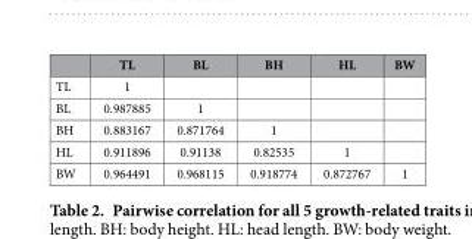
<table><thead><tr><td></td><td>TL</td><td>BL</td><td>BH</td><td>HL</td><td>BW</td></tr></thead><tbody><tr><td>TL</td><td>1</td><td></td><td></td><td></td><td></td></tr><tr><td>BL</td><td>0.987885</td><td>1</td><td></td><td></td><td></td></tr><tr><td>BH</td><td>0.883167</td><td>0.871764</td><td>1</td><td></td><td></td></tr><tr><td>HL</td><td>0.911896</td><td>0.91138</td><td>0.82535</td><td>1</td><td></td></tr><tr><td>BW</td><td>0.964491</td><td>0.968115</td><td>0.918774</td><td>0.872767</td><td>1</td></tr></tbody></table>